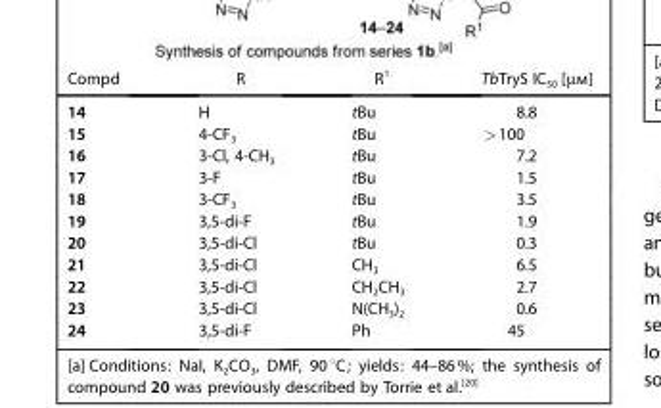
<table><thead><tr><td>Compd</td><td>R</td><td>R<sup>1</sup></td><td>TbTryS IC<sub>50</sub> [μm]</td></tr></thead><tbody><tr><td>14</td><td>H</td><td>tBu</td><td>8.8</td></tr><tr><td>15</td><td>4-CF<sub>3</sub></td><td>tBu</td><td>&gt;100</td></tr><tr><td>16</td><td>3-Cl, 4-CH<sub>3</sub></td><td>tBu</td><td>7.2</td></tr><tr><td>17</td><td>3-F</td><td>tBu</td><td>1.5</td></tr><tr><td>18</td><td>3-CF<sub>3</sub></td><td>tBu</td><td>3.5</td></tr><tr><td>19</td><td>3,5-di-F</td><td>tBu</td><td>1.9</td></tr><tr><td>20</td><td>3,5-di-Cl</td><td>tBu</td><td>0.3</td></tr><tr><td>21</td><td>3,5-di-Cl</td><td>CH<sub>3</sub></td><td>6.5</td></tr><tr><td>22</td><td>3,5-di-Cl</td><td>CH<sub>2</sub>CH<sub>3</sub></td><td>2.7</td></tr><tr><td>23</td><td>3,5-di-Cl</td><td>N(CH<sub>3</sub>)<sub>2</sub></td><td>0.6</td></tr><tr><td>24</td><td>3,5-di-F</td><td>Ph</td><td>45</td></tr></tbody></table>